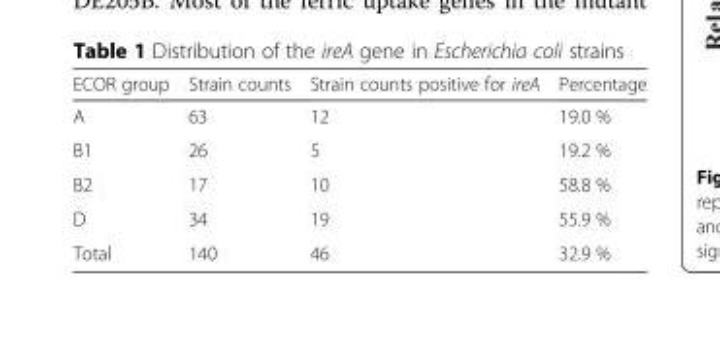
<table><thead><tr><td>ECOR group</td><td>Strain counts</td><td>Strain counts positive for ireA</td><td>Percentage</td></tr></thead><tbody><tr><td>A</td><td>63</td><td>12</td><td>19.0 %</td></tr><tr><td>B1</td><td>26</td><td>5</td><td>19.2 %</td></tr><tr><td>B2</td><td>17</td><td>10</td><td>58.8 %</td></tr><tr><td>D</td><td>34</td><td>19</td><td>55.9 %</td></tr><tr><td>Total</td><td>140</td><td>46</td><td>32.9 %</td></tr></tbody></table>